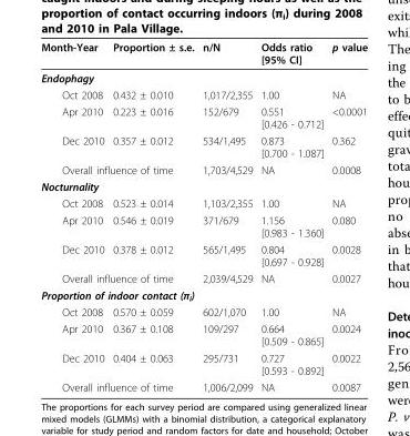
<table><thead><tr><td>Month-Year</td><td>Proportion ± s.e.</td><td>n/N</td><td>Odds ratio [95% CI]</td><td>p value</td></tr></thead><tbody><tr><td colspan="5">Endophagy</td></tr><tr><td>Oct 2008</td><td>0.432 ± 0.010</td><td>1,017/2,355</td><td>1.00</td><td>NA</td></tr><tr><td>Apr 2010</td><td>0.223 ± 0.016</td><td>152/679</td><td>0.551 [0.426 - 0.712]</td><td>&lt;0.0001</td></tr><tr><td>Dec 2010</td><td>0.357 ± 0.012</td><td>534/1,495</td><td>0.873 [0.700 - 1.087]</td><td>0.362</td></tr><tr><td colspan="2">Overall influence of time</td><td>1,703/4,529</td><td>NA</td><td>0.0008</td></tr><tr><td colspan="5">Nocturnality</td></tr><tr><td>Oct 2008</td><td>0.523 ± 0.014</td><td>1,103/2,355</td><td>1.00</td><td>NA</td></tr><tr><td>Apr 2010</td><td>0.546 ± 0.019</td><td>371/679</td><td>1.156 [0.983 - 1.360]</td><td>0.080</td></tr><tr><td>Dec 2010</td><td>0.378 ± 0.012</td><td>565/1,495</td><td>0.804 [0.697 - 0.928]</td><td>0.0028</td></tr><tr><td colspan="2">Overall influence of time</td><td>2,039/4,529</td><td>NA</td><td>0.0027</td></tr><tr><td colspan="5">Proportion of indoor contact (π<sub>i</sub>)</td></tr><tr><td>Oct 2008</td><td>0.570 ± 0.059</td><td>602/1,070</td><td>1.00</td><td>NA</td></tr><tr><td>Apr 2010</td><td>0.367 ± 0.108</td><td>109/297</td><td>0.664 [0.509 - 0.865]</td><td>0.0024</td></tr><tr><td>Dec 2010</td><td>0.404 ± 0.063</td><td>295/731</td><td>0.727 [0.593 - 0.892]</td><td>0.0022</td></tr><tr><td colspan="2">Overall influence of time</td><td>1,006/2,099</td><td>NA</td><td>0.0087</td></tr></tbody></table>